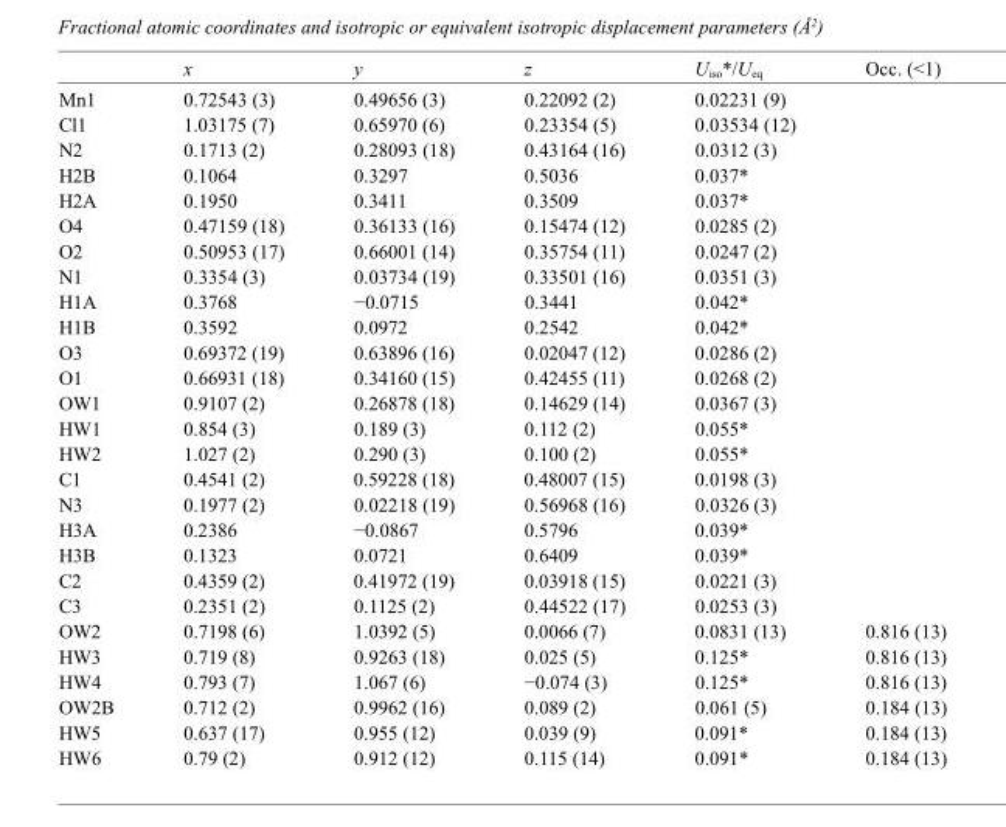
<table><thead><tr><td></td><td>x</td><td>y</td><td>z</td><td>U<sub>iso</sub>*/U<sub>eq</sub></td><td>Occ. (&lt;1)</td></tr></thead><tbody><tr><td>Mn1</td><td>0.72543 (3)</td><td>0.49656 (3)</td><td>0.22092 (2)</td><td>0.02231 (9)</td><td></td></tr><tr><td>Cl1</td><td>1.03175 (7)</td><td>0.65970 (6)</td><td>0.23354 (5)</td><td>0.03534 (12)</td><td></td></tr><tr><td>N2</td><td>0.1713 (2)</td><td>0.28093 (18)</td><td>0.43164 (16)</td><td>0.0312 (3)</td><td></td></tr><tr><td>H2B</td><td>0.1064</td><td>0.3297</td><td>0.5036</td><td>0.037*</td><td></td></tr><tr><td>H2A</td><td>0.1950</td><td>0.3411</td><td>0.3509</td><td>0.037*</td><td></td></tr><tr><td>O4</td><td>0.47159 (18)</td><td>0.36133 (16)</td><td>0.15474 (12)</td><td>0.0285 (2)</td><td></td></tr><tr><td>O2</td><td>0.50953 (17)</td><td>0.66001 (14)</td><td>0.35754 (11)</td><td>0.0247 (2)</td><td></td></tr><tr><td>N1</td><td>0.3354 (3)</td><td>0.03734 (19)</td><td>0.33501 (16)</td><td>0.0351 (3)</td><td></td></tr><tr><td>H1A</td><td>0.3768</td><td>−0.0715</td><td>0.3441</td><td>0.042*</td><td></td></tr><tr><td>H1B</td><td>0.3592</td><td>0.0972</td><td>0.2542</td><td>0.042*</td><td></td></tr><tr><td>O3</td><td>0.69372 (19)</td><td>0.63896 (16)</td><td>0.02047 (12)</td><td>0.0286 (2)</td><td></td></tr><tr><td>O1</td><td>0.66931 (18)</td><td>0.34160 (15)</td><td>0.42455 (11)</td><td>0.0268 (2)</td><td></td></tr><tr><td>OW1</td><td>0.9107 (2)</td><td>0.26878 (18)</td><td>0.14629 (14)</td><td>0.0367 (3)</td><td></td></tr><tr><td>HW1</td><td>0.854 (3)</td><td>0.189 (3)</td><td>0.112 (2)</td><td>0.055*</td><td></td></tr><tr><td>HW2</td><td>1.027 (2)</td><td>0.290 (3)</td><td>0.100 (2)</td><td>0.055*</td><td></td></tr><tr><td>C1</td><td>0.4541 (2)</td><td>0.59228 (18)</td><td>0.48007 (15)</td><td>0.0198 (3)</td><td></td></tr><tr><td>N3</td><td>0.1977 (2)</td><td>0.02218 (19)</td><td>0.56968 (16)</td><td>0.0326 (3)</td><td></td></tr><tr><td>H3A</td><td>0.2386</td><td>−0.0867</td><td>0.5796</td><td>0.039*</td><td></td></tr><tr><td>H3B</td><td>0.1323</td><td>0.0721</td><td>0.6409</td><td>0.039*</td><td></td></tr><tr><td>C2</td><td>0.4359 (2)</td><td>0.41972 (19)</td><td>0.03918 (15)</td><td>0.0221 (3)</td><td></td></tr><tr><td>C3</td><td>0.2351 (2)</td><td>0.1125 (2)</td><td>0.44522 (17)</td><td>0.0253 (3)</td><td></td></tr><tr><td>OW2</td><td>0.7198 (6)</td><td>1.0392 (5)</td><td>0.0066 (7)</td><td>0.0831 (13)</td><td>0.816 (13)</td></tr><tr><td>HW3</td><td>0.719 (8)</td><td>0.9263 (18)</td><td>0.025 (5)</td><td>0.125*</td><td>0.816 (13)</td></tr><tr><td>HW4</td><td>0.793 (7)</td><td>1.067 (6)</td><td>−0.074 (3)</td><td>0.125*</td><td>0.816 (13)</td></tr><tr><td>OW2B</td><td>0.712 (2)</td><td>0.9962 (16)</td><td>0.089 (2)</td><td>0.061 (5)</td><td>0.184 (13)</td></tr><tr><td>HW5</td><td>0.637 (17)</td><td>0.955 (12)</td><td>0.039 (9)</td><td>0.091*</td><td>0.184 (13)</td></tr><tr><td>HW6</td><td>0.79 (2)</td><td>0.912 (12)</td><td>0.115 (14)</td><td>0.091*</td><td>0.184 (13)</td></tr></tbody></table>